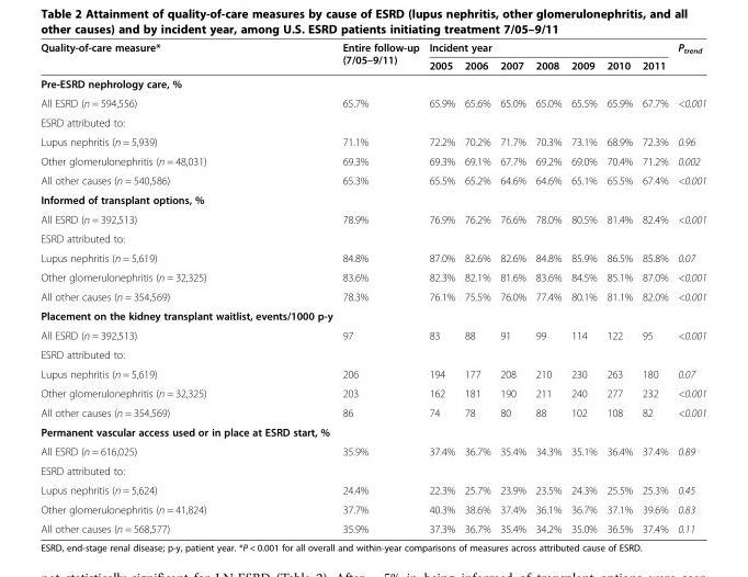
<table><thead><tr><td rowspan="2">Quality-of-care measure*</td><td rowspan="2">Entire follow-up (7/05–9/11)</td><td colspan="7">Incident year</td><td rowspan="2">P<sub>trend</sub></td></tr><tr><td>2005</td><td>2006</td><td>2007</td><td>2008</td><td>2009</td><td>2010</td><td>2011</td></tr></thead><tbody><tr><td colspan="10">Pre-ESRD nephrology care, %</td></tr><tr><td>All ESRD (n = 594,556)</td><td>65.7%</td><td>65.9%</td><td>65.6%</td><td>65.0%</td><td>65.0%</td><td>65.5%</td><td>65.9%</td><td>67.7%</td><td>&lt;0.001</td></tr><tr><td colspan="10">ESRD attributed to:</td></tr><tr><td>Lupus nephritis (n = 5,939)</td><td>71.1%</td><td>72.2%</td><td>70.2%</td><td>71.7%</td><td>70.3%</td><td>73.1%</td><td>68.9%</td><td>72.3%</td><td>0.96</td></tr><tr><td>Other glomerulonephritis (n = 48,031)</td><td>69.3%</td><td>69.3%</td><td>69.1%</td><td>67.7%</td><td>69.2%</td><td>69.0%</td><td>70.4%</td><td>71.2%</td><td>0.002</td></tr><tr><td>All other causes (n = 540,586)</td><td>65.3%</td><td>65.5%</td><td>65.2%</td><td>64.6%</td><td>64.6%</td><td>65.1%</td><td>65.5%</td><td>67.4%</td><td>&lt;0.001</td></tr><tr><td colspan="10">Informed of transplant options, %</td></tr><tr><td>All ESRD (n = 392,513)</td><td>78.9%</td><td>76.9%</td><td>76.2%</td><td>76.6%</td><td>78.0%</td><td>80.5%</td><td>81.4%</td><td>82.4%</td><td>&lt;0.001</td></tr><tr><td colspan="10">ESRD attributed to:</td></tr><tr><td>Lupus nephritis (n = 5,619)</td><td>84.8%</td><td>87.0%</td><td>82.6%</td><td>82.6%</td><td>84.8%</td><td>85.9%</td><td>86.5%</td><td>85.8%</td><td>0.07</td></tr><tr><td>Other glomerulonephritis (n = 32,325)</td><td>83.6%</td><td>82.3%</td><td>82.1%</td><td>81.6%</td><td>83.6%</td><td>84.5%</td><td>85.1%</td><td>87.0%</td><td>&lt;0.001</td></tr><tr><td>All other causes (n = 354,569)</td><td>78.3%</td><td>76.1%</td><td>75.5%</td><td>76.0%</td><td>77.4%</td><td>80.1%</td><td>81.1%</td><td>82.0%</td><td>&lt;0.001</td></tr><tr><td colspan="10">Placement on the kidney transplant waitlist, events/1000 p-y</td></tr><tr><td>All ESRD (n = 392,513)</td><td>97</td><td>83</td><td>88</td><td>91</td><td>99</td><td>114</td><td>122</td><td>95</td><td>&lt;0.001</td></tr><tr><td colspan="10">ESRD attributed to:</td></tr><tr><td>Lupus nephritis (n = 5,619)</td><td>206</td><td>194</td><td>177</td><td>208</td><td>210</td><td>230</td><td>263</td><td>180</td><td>0.07</td></tr><tr><td>Other glomerulonephritis (n = 32,325)</td><td>203</td><td>162</td><td>181</td><td>190</td><td>211</td><td>240</td><td>277</td><td>232</td><td>&lt;0.001</td></tr><tr><td>All other causes (n = 354,569)</td><td>86</td><td>74</td><td>78</td><td>80</td><td>88</td><td>102</td><td>108</td><td>82</td><td>&lt;0.001</td></tr><tr><td colspan="10">Permanent vascular access used or in place at ESRD start, %</td></tr><tr><td>All ESRD (n = 616,025)</td><td>35.9%</td><td>37.4%</td><td>36.7%</td><td>35.4%</td><td>34.3%</td><td>35.1%</td><td>36.4%</td><td>37.4%</td><td>0.89</td></tr><tr><td colspan="10">ESRD attributed to:</td></tr><tr><td>Lupus nephritis (n = 5,624)</td><td>24.4%</td><td>22.3%</td><td>25.7%</td><td>23.9%</td><td>23.5%</td><td>24.3%</td><td>25.5%</td><td>25.3%</td><td>0.45</td></tr><tr><td>Other glomerulonephritis (n = 41,824)</td><td>37.7%</td><td>40.3%</td><td>38.6%</td><td>37.4%</td><td>36.1%</td><td>36.7%</td><td>37.1%</td><td>39.6%</td><td>0.83</td></tr><tr><td>All other causes (n = 568,577)</td><td>35.9%</td><td>37.3%</td><td>36.7%</td><td>35.4%</td><td>34.2%</td><td>35.0%</td><td>36.5%</td><td>37.4%</td><td>0.11</td></tr></tbody></table>